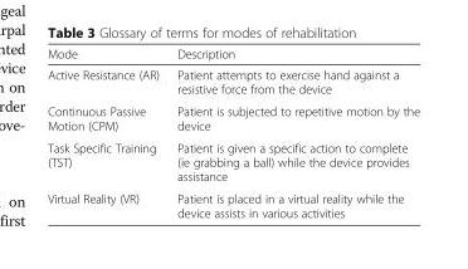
<table><thead><tr><td>Mode</td><td>Description</td></tr></thead><tbody><tr><td>Active Resistance (AR)</td><td>Patient attempts to exercise hand against a resistive force from the device</td></tr><tr><td>Continuous Passive Motion (CPM)</td><td>Patient is subjected to repetitive motion by the device</td></tr><tr><td>Task Specific Training (TST)</td><td>Patient is given a specific action to complete (ie grabbing a ball) while the device provides assistance</td></tr><tr><td>Virtual Reality (VR)</td><td>Patient is placed in a virtual reality while the device assists in various activities</td></tr></tbody></table>